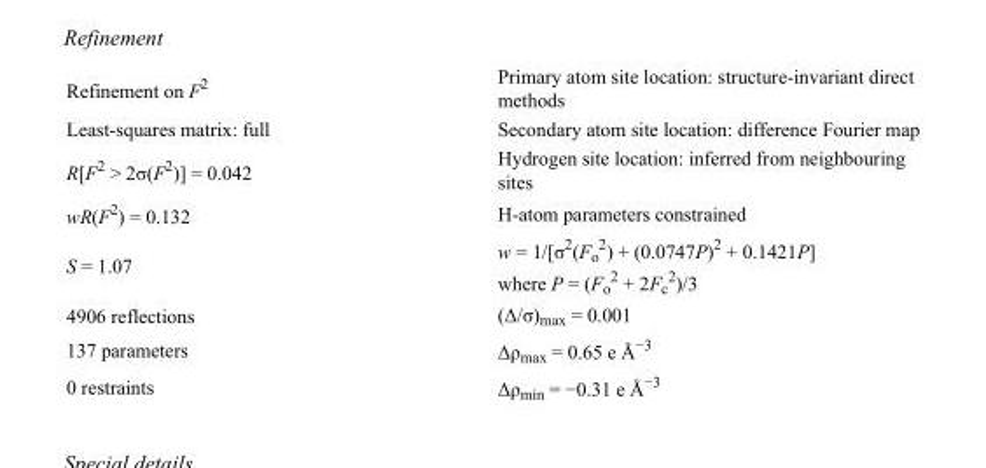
<table><tbody><tr><td>Refinement on F<sup>2</sup></td><td>Primary atom site location: structure-invariant direct methods</td></tr><tr><td>Least-squares matrix: full</td><td>Secondary atom site location: difference Fourier map</td></tr><tr><td>R[F<sup>2</sup> &gt; 2σ(F<sup>2</sup>)] = 0.042</td><td>Hydrogen site location: inferred from neighbouring sites</td></tr><tr><td>wR(F<sup>2</sup>) = 0.132</td><td>H-atom parameters constrained</td></tr><tr><td>S = 1.07</td><td>w = 1/[σ<sup>2</sup>(F<sub>o</sub> <sup>2</sup>) + (0.0747P)<sup>2</sup> + 0.1421P] where P = (F<sub>o</sub> <sup>2</sup> + 2F<sub>c</sub> <sup>2</sup>)/3</td></tr><tr><td>4906 reflections</td><td>(Δ/σ)<sub>max</sub> = 0.001</td></tr><tr><td>137 parameters</td><td>Δρ<sub>max</sub> = 0.65 e Å<sup>−3</sup></td></tr><tr><td>0 restraints</td><td>Δρ<sub>min</sub> = −0.31 e Å<sup>−3</sup></td></tr></tbody></table>